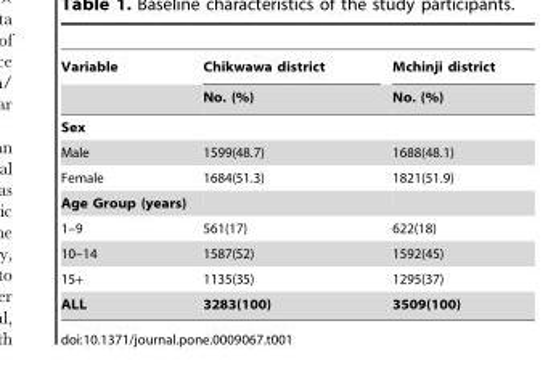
<table><thead><tr><td rowspan="2">Variable</td><td rowspan="2">Chikwawa district No. (%)</td><td rowspan="2">Mchinji district No. (%)</td></tr><tr></tr></thead><tbody><tr><td colspan="3">Sex</td></tr><tr><td>Male</td><td>1599(48.7)</td><td>1688(48.1)</td></tr><tr><td>Female</td><td>1684(51.3)</td><td>1821(51.9)</td></tr><tr><td colspan="3">Age Group (years)</td></tr><tr><td>1–9</td><td>561(17)</td><td>622(18)</td></tr><tr><td>10–14</td><td>1587(52)</td><td>1592(45)</td></tr><tr><td>15+</td><td>1135(35)</td><td>1295(37)</td></tr><tr><td>ALL</td><td>3283(100)</td><td>3509(100)</td></tr></tbody></table>